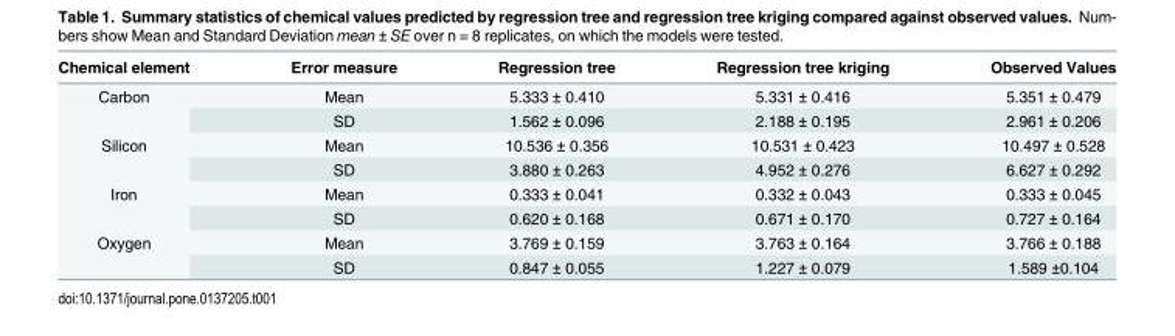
<table><thead><tr><td>Chemical element</td><td>Error measure</td><td>Regression tree</td><td>Regression tree kriging</td><td>Observed Values</td></tr></thead><tbody><tr><td rowspan="2">Carbon</td><td>Mean</td><td>5.333 ± 0.410</td><td>5.331 ± 0.416</td><td>5.351 ± 0.479</td></tr><tr><td>SD</td><td>1.562 ± 0.096</td><td>2.188 ± 0.195</td><td>2.961 ± 0.206</td></tr><tr><td rowspan="2">Silicon</td><td>Mean</td><td>10.536 ± 0.356</td><td>10.531 ± 0.423</td><td>10.497 ± 0.528</td></tr><tr><td>SD</td><td>3.880 ± 0.263</td><td>4.952 ± 0.276</td><td>6.627 ± 0.292</td></tr><tr><td rowspan="2">Iron</td><td>Mean</td><td>0.333 ± 0.041</td><td>0.332 ± 0.043</td><td>0.333 ± 0.045</td></tr><tr><td>SD</td><td>0.620 ± 0.168</td><td>0.671 ± 0.170</td><td>0.727 ± 0.164</td></tr><tr><td rowspan="2">Oxygen</td><td>Mean</td><td>3.769 ± 0.159</td><td>3.763 ± 0.164</td><td>3.766 ± 0.188</td></tr><tr><td>SD</td><td>0.847 ± 0.055</td><td>1.227 ± 0.079</td><td>1.589 ±0.104</td></tr></tbody></table>